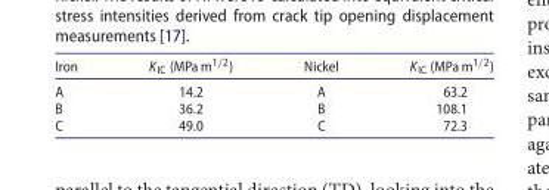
<table><thead><tr><td>Iron</td><td>K<sub>IC</sub> (MPa m<sup>1/2</sup>)</td><td>Nickel</td><td>K<sub>IC</sub> (MPa m<sup>1/2</sup>)</td></tr></thead><tbody><tr><td>A</td><td>14.2</td><td>A</td><td>63.2</td></tr><tr><td>B</td><td>36.2</td><td>B</td><td>108.1</td></tr><tr><td>C</td><td>49.0</td><td>C</td><td>72.3</td></tr></tbody></table>